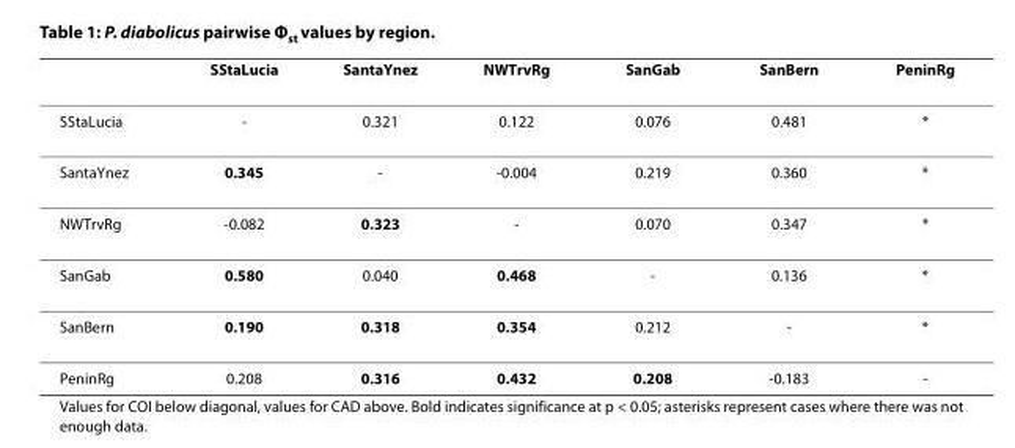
<table><thead><tr><td></td><td>SStaLucia</td><td>SantaYnez</td><td>NWTrvRg</td><td>SanGab</td><td>SanBern</td><td>PeninRg</td></tr></thead><tbody><tr><td>SStaLucia</td><td>-</td><td>0.321</td><td>0.122</td><td>0.076</td><td>0.481</td><td>*</td></tr><tr><td>SantaYnez</td><td>0.345</td><td>-</td><td>-0.004</td><td>0.219</td><td>0.360</td><td>*</td></tr><tr><td>NWTrvRg</td><td>-0.082</td><td>0.323</td><td>-</td><td>0.070</td><td>0.347</td><td>*</td></tr><tr><td>SanGab</td><td>0.580</td><td>0.040</td><td>0.468</td><td>-</td><td>0.136</td><td>*</td></tr><tr><td>SanBern</td><td>0.190</td><td>0.318</td><td>0.354</td><td>0.212</td><td>-</td><td>*</td></tr><tr><td>PeninRg</td><td>0.208</td><td>0.316</td><td>0.432</td><td>0.208</td><td>-0.183</td><td>-</td></tr></tbody></table>